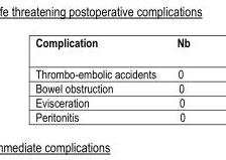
<table><thead><tr><td rowspan="5">Complication Thrombo-embolic accidents Bowel obstruction Evisceration Peritonitis</td><td rowspan="5">Nb 0 0 0 0</td></tr><tr></tr><tr></tr><tr></tr><tr></tr></thead><tbody></tbody></table>